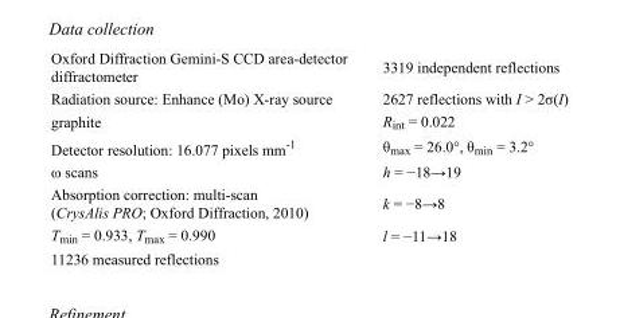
<table><tbody><tr><td>Oxford Diffraction Gemini-S CCD area-detector diffractometer</td><td>3319 independent reflections</td></tr><tr><td>Radiation source: Enhance (Mo) X-ray source</td><td>2627 reflections with I &gt; 2σ(I)</td></tr><tr><td>graphite</td><td>R<sub>int</sub> = 0.022</td></tr><tr><td>Detector resolution: 16.077 pixels mm<sup>-1</sup></td><td>θ<sub>max</sub> = 26.0°, θ<sub>min</sub> = 3.2°</td></tr><tr><td>ω scans</td><td>h = −18→19</td></tr><tr><td>Absorption correction: multi-scan (CrysAlis PRO; Oxford Diffraction, 2010)</td><td>k = −8→8</td></tr><tr><td>T<sub>min</sub> = 0.933, T<sub>max</sub> = 0.990</td><td>l = −11→18</td></tr><tr><td>11236 measured reflections</td><td></td></tr></tbody></table>